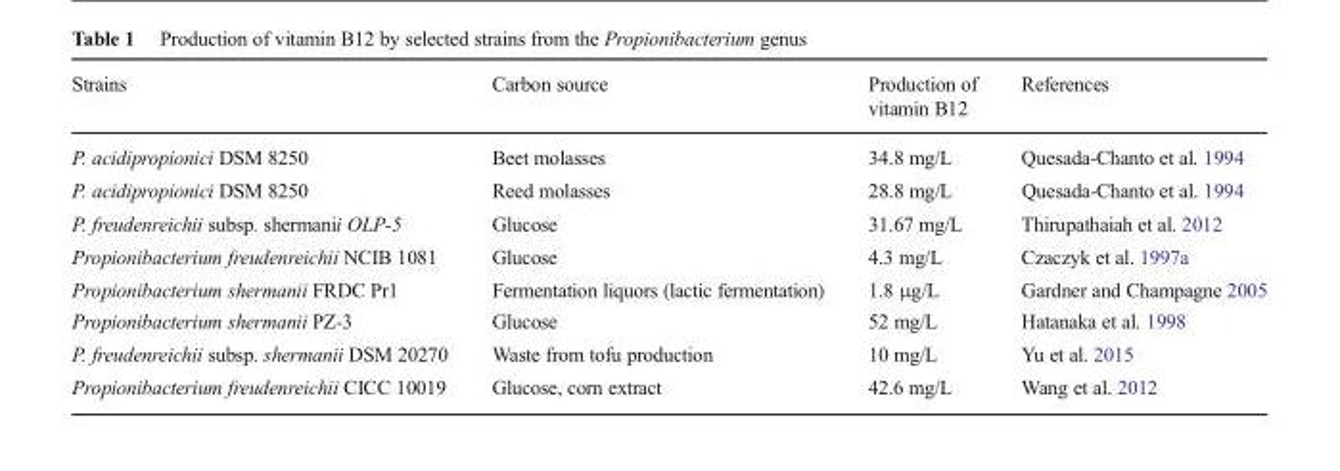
<table><thead><tr><td>Strains</td><td>Carbon source</td><td>Production of vitamin B12</td><td>References</td></tr></thead><tbody><tr><td>P. acidipropionici DSM 8250</td><td>Beet molasses</td><td>34.8 mg/L</td><td>Quesada-Chanto et al. 1994</td></tr><tr><td>P. acidipropionici DSM 8250</td><td>Reed molasses</td><td>28.8 mg/L</td><td>Quesada-Chanto et al. 1994</td></tr><tr><td>P. freudenreichii subsp. shermanii OLP-5</td><td>Glucose</td><td>31.67 mg/L</td><td>Thirupathaiah et al. 2012</td></tr><tr><td>Propionibacterium freudenreichii NCIB 1081</td><td>Glucose</td><td>4.3 mg/L</td><td>Czaczyk et al. 1997a</td></tr><tr><td>Propionibacterium shermanii FRDC Pr1</td><td>Fermentation liquors (lactic fermentation)</td><td>1.8 μg/L</td><td>Gardner and Champagne 2005</td></tr><tr><td>Propionibacterium shermanii PZ-3</td><td>Glucose</td><td>52 mg/L</td><td>Hatanaka et al. 1998</td></tr><tr><td>P. freudenreichii subsp. shermanii DSM 20270</td><td>Waste from tofu production</td><td>10 mg/L</td><td>Yu et al. 2015</td></tr><tr><td>Propionibacterium freudenreichii CICC 10019</td><td>Glucose, corn extract</td><td>42.6 mg/L</td><td>Wang et al. 2012</td></tr></tbody></table>